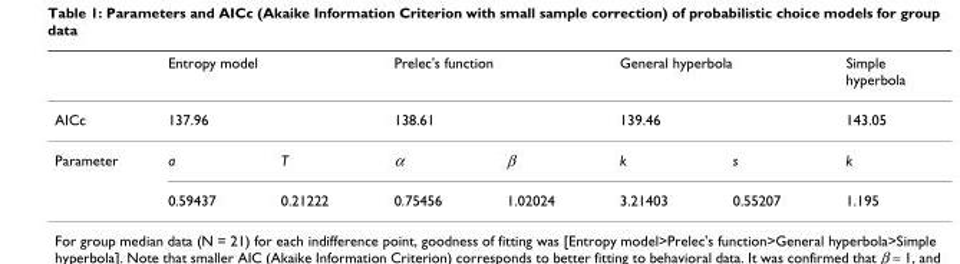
<table><thead><tr><td rowspan="3">AICc Parameter</td><td rowspan="2" colspan="2">Entropy model 137.96</td><td rowspan="2" colspan="2">Prelec&#x27;s function 138.61</td><td rowspan="2" colspan="2">General hyperbola 139.46</td><td rowspan="3">Simple hyperbola 143.05 k</td></tr><tr></tr><tr><td>a</td><td>T</td><td>α</td><td>β</td><td>k</td><td>s</td></tr></thead><tbody><tr><td></td><td>0.59437</td><td>0.21222</td><td>0.75456</td><td>1.02024</td><td>3.21403</td><td>0.55207</td><td>1.195</td></tr></tbody></table>